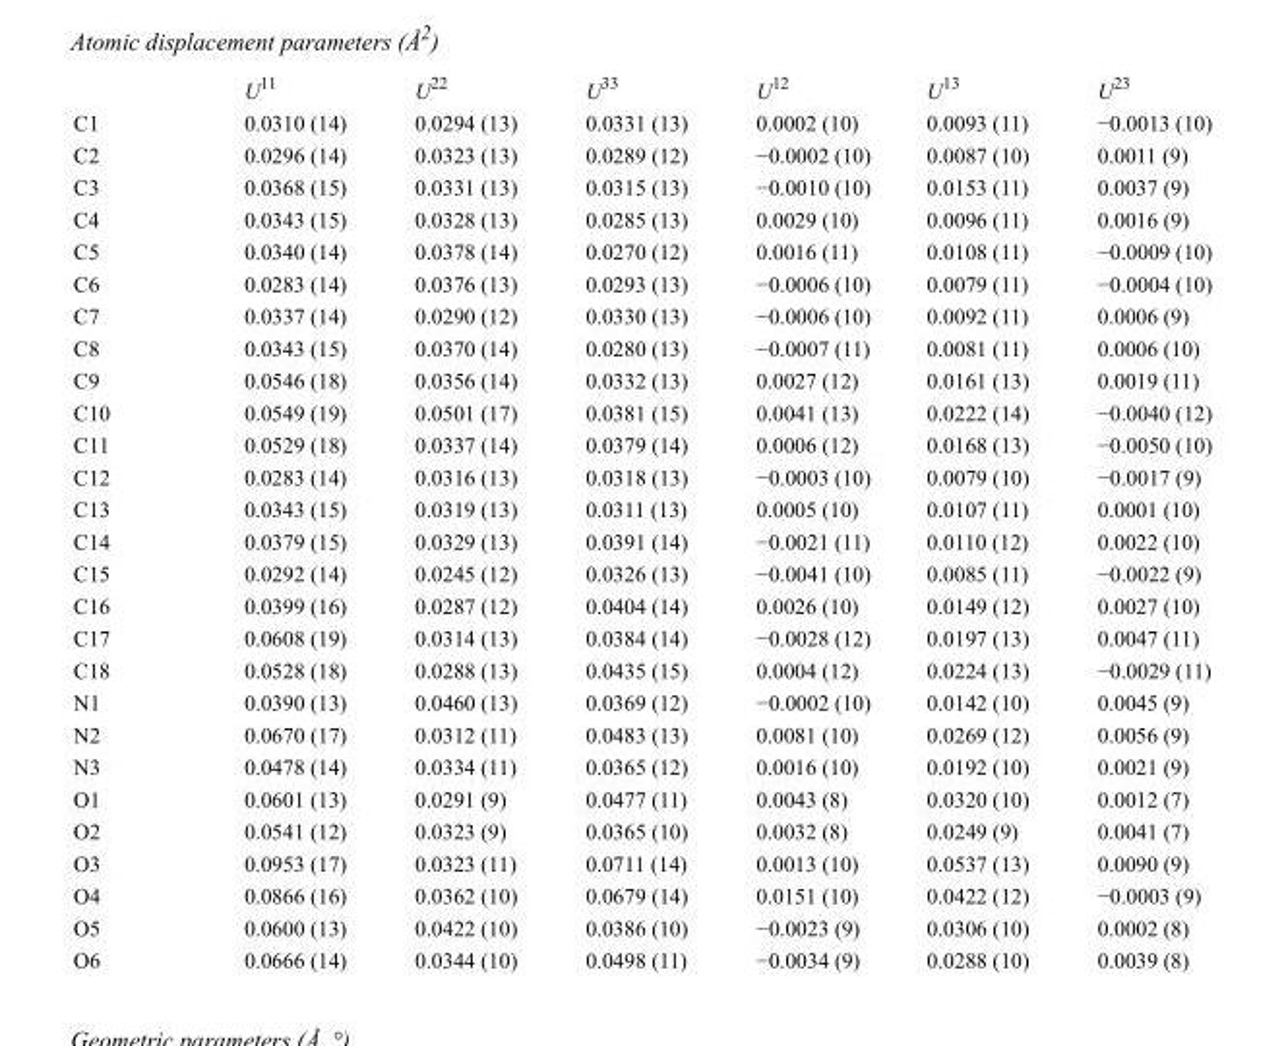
<table><thead><tr><td></td><td>U<sup>11</sup></td><td>U<sup>22</sup></td><td>U<sup>33</sup></td><td>U<sup>12</sup></td><td>U<sup>13</sup></td><td>U<sup>23</sup></td></tr></thead><tbody><tr><td>C1</td><td>0.0310 (14)</td><td>0.0294 (13)</td><td>0.0331 (13)</td><td>0.0002 (10)</td><td>0.0093 (11)</td><td>−0.0013 (10)</td></tr><tr><td>C2</td><td>0.0296 (14)</td><td>0.0323 (13)</td><td>0.0289 (12)</td><td>−0.0002 (10)</td><td>0.0087 (10)</td><td>0.0011 (9)</td></tr><tr><td>C3</td><td>0.0368 (15)</td><td>0.0331 (13)</td><td>0.0315 (13)</td><td>−0.0010 (10)</td><td>0.0153 (11)</td><td>0.0037 (9)</td></tr><tr><td>C4</td><td>0.0343 (15)</td><td>0.0328 (13)</td><td>0.0285 (13)</td><td>0.0029 (10)</td><td>0.0096 (11)</td><td>0.0016 (9)</td></tr><tr><td>C5</td><td>0.0340 (14)</td><td>0.0378 (14)</td><td>0.0270 (12)</td><td>0.0016 (11)</td><td>0.0108 (11)</td><td>−0.0009 (10)</td></tr><tr><td>C6</td><td>0.0283 (14)</td><td>0.0376 (13)</td><td>0.0293 (13)</td><td>−0.0006 (10)</td><td>0.0079 (11)</td><td>−0.0004 (10)</td></tr><tr><td>C7</td><td>0.0337 (14)</td><td>0.0290 (12)</td><td>0.0330 (13)</td><td>−0.0006 (10)</td><td>0.0092 (11)</td><td>0.0006 (9)</td></tr><tr><td>C8</td><td>0.0343 (15)</td><td>0.0370 (14)</td><td>0.0280 (13)</td><td>−0.0007 (11)</td><td>0.0081 (11)</td><td>0.0006 (10)</td></tr><tr><td>C9</td><td>0.0546 (18)</td><td>0.0356 (14)</td><td>0.0332 (13)</td><td>0.0027 (12)</td><td>0.0161 (13)</td><td>0.0019 (11)</td></tr><tr><td>C10</td><td>0.0549 (19)</td><td>0.0501 (17)</td><td>0.0381 (15)</td><td>0.0041 (13)</td><td>0.0222 (14)</td><td>−0.0040 (12)</td></tr><tr><td>C11</td><td>0.0529 (18)</td><td>0.0337 (14)</td><td>0.0379 (14)</td><td>0.0006 (12)</td><td>0.0168 (13)</td><td>−0.0050 (10)</td></tr><tr><td>C12</td><td>0.0283 (14)</td><td>0.0316 (13)</td><td>0.0318 (13)</td><td>−0.0003 (10)</td><td>0.0079 (10)</td><td>−0.0017 (9)</td></tr><tr><td>C13</td><td>0.0343 (15)</td><td>0.0319 (13)</td><td>0.0311 (13)</td><td>0.0005 (10)</td><td>0.0107 (11)</td><td>0.0001 (10)</td></tr><tr><td>C14</td><td>0.0379 (15)</td><td>0.0329 (13)</td><td>0.0391 (14)</td><td>−0.0021 (11)</td><td>0.0110 (12)</td><td>0.0022 (10)</td></tr><tr><td>C15</td><td>0.0292 (14)</td><td>0.0245 (12)</td><td>0.0326 (13)</td><td>−0.0041 (10)</td><td>0.0085 (11)</td><td>−0.0022 (9)</td></tr><tr><td>C16</td><td>0.0399 (16)</td><td>0.0287 (12)</td><td>0.0404 (14)</td><td>0.0026 (10)</td><td>0.0149 (12)</td><td>0.0027 (10)</td></tr><tr><td>C17</td><td>0.0608 (19)</td><td>0.0314 (13)</td><td>0.0384 (14)</td><td>−0.0028 (12)</td><td>0.0197 (13)</td><td>0.0047 (11)</td></tr><tr><td>C18</td><td>0.0528 (18)</td><td>0.0288 (13)</td><td>0.0435 (15)</td><td>0.0004 (12)</td><td>0.0224 (13)</td><td>−0.0029 (11)</td></tr><tr><td>N1</td><td>0.0390 (13)</td><td>0.0460 (13)</td><td>0.0369 (12)</td><td>−0.0002 (10)</td><td>0.0142 (10)</td><td>0.0045 (9)</td></tr><tr><td>N2</td><td>0.0670 (17)</td><td>0.0312 (11)</td><td>0.0483 (13)</td><td>0.0081 (10)</td><td>0.0269 (12)</td><td>0.0056 (9)</td></tr><tr><td>N3</td><td>0.0478 (14)</td><td>0.0334 (11)</td><td>0.0365 (12)</td><td>0.0016 (10)</td><td>0.0192 (10)</td><td>0.0021 (9)</td></tr><tr><td>O1</td><td>0.0601 (13)</td><td>0.0291 (9)</td><td>0.0477 (11)</td><td>0.0043 (8)</td><td>0.0320 (10)</td><td>0.0012 (7)</td></tr><tr><td>O2</td><td>0.0541 (12)</td><td>0.0323 (9)</td><td>0.0365 (10)</td><td>0.0032 (8)</td><td>0.0249 (9)</td><td>0.0041 (7)</td></tr><tr><td>O3</td><td>0.0953 (17)</td><td>0.0323 (11)</td><td>0.0711 (14)</td><td>0.0013 (10)</td><td>0.0537 (13)</td><td>0.0090 (9)</td></tr><tr><td>O4</td><td>0.0866 (16)</td><td>0.0362 (10)</td><td>0.0679 (14)</td><td>0.0151 (10)</td><td>0.0422 (12)</td><td>−0.0003 (9)</td></tr><tr><td>O5</td><td>0.0600 (13)</td><td>0.0422 (10)</td><td>0.0386 (10)</td><td>−0.0023 (9)</td><td>0.0306 (10)</td><td>0.0002 (8)</td></tr><tr><td>O6</td><td>0.0666 (14)</td><td>0.0344 (10)</td><td>0.0498 (11)</td><td>−0.0034 (9)</td><td>0.0288 (10)</td><td>0.0039 (8)</td></tr></tbody></table>